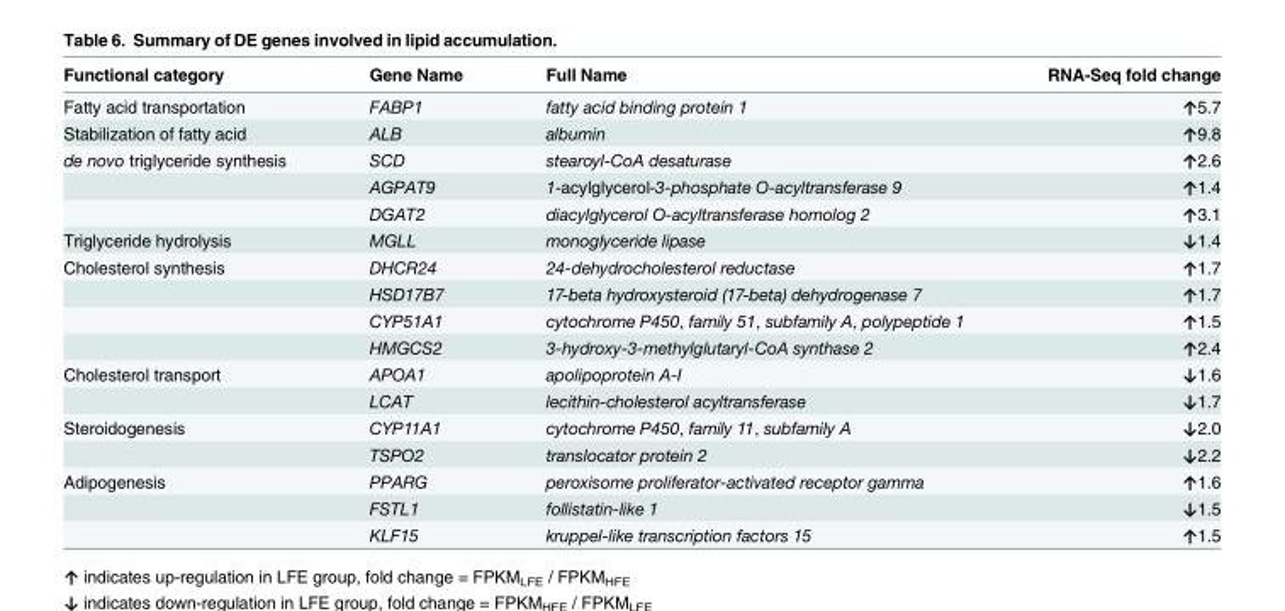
<table><thead><tr><td>Functional category</td><td>Gene Name</td><td>Full Name</td><td>RNA-Seq fold change</td></tr></thead><tbody><tr><td>Fatty acid transportation</td><td>FABP1</td><td>fatty acid binding protein 1</td><td>↑5.7</td></tr><tr><td>Stabilization of fatty acid</td><td>ALB</td><td>albumin</td><td>↑9.8</td></tr><tr><td rowspan="3">de novo triglyceride synthesis</td><td>SCD</td><td>stearoyl-CoA desaturase</td><td>↑2.6</td></tr><tr><td>AGPAT9</td><td>1-acylglycerol-3-phosphate O-acyltransferase 9</td><td>↑1.4</td></tr><tr><td>DGAT2</td><td>diacylglycerol O-acyltransferase homolog 2</td><td>↑3.1</td></tr><tr><td>Triglyceride hydrolysis</td><td>MGLL</td><td>monoglyceride lipase</td><td>↓1.4</td></tr><tr><td rowspan="4">Cholesterol synthesis</td><td>DHCR24</td><td>24-dehydrocholesterol reductase</td><td>↑1.7</td></tr><tr><td>HSD17B7</td><td>17-beta hydroxysteroid (17-beta) dehydrogenase 7</td><td>↑1.7</td></tr><tr><td>CYP51A1</td><td>cytochrome P450, family 51, subfamily A, polypeptide 1</td><td>↑1.5</td></tr><tr><td>HMGCS2</td><td>3-hydroxy-3-methylglutaryl-CoA synthase 2</td><td>↑2.4</td></tr><tr><td rowspan="2">Cholesterol transport</td><td>APOA1</td><td>apolipoprotein A-I</td><td>↓1.6</td></tr><tr><td>LCAT</td><td>lecithin-cholesterol acyltransferase</td><td>↓1.7</td></tr><tr><td rowspan="2">Steroidogenesis</td><td>CYP11A1</td><td>cytochrome P450, family 11, subfamily A</td><td>↓2.0</td></tr><tr><td>TSPO2</td><td>translocator protein 2</td><td>↓2.2</td></tr><tr><td rowspan="3">Adipogenesis</td><td>PPARG</td><td>peroxisome proliferator-activated receptor gamma</td><td>↑1.6</td></tr><tr><td>FSTL1</td><td>follistatin-like 1</td><td>↓1.5</td></tr><tr><td>KLF15</td><td>kruppel-like transcription factors 15</td><td>↑1.5</td></tr></tbody></table>